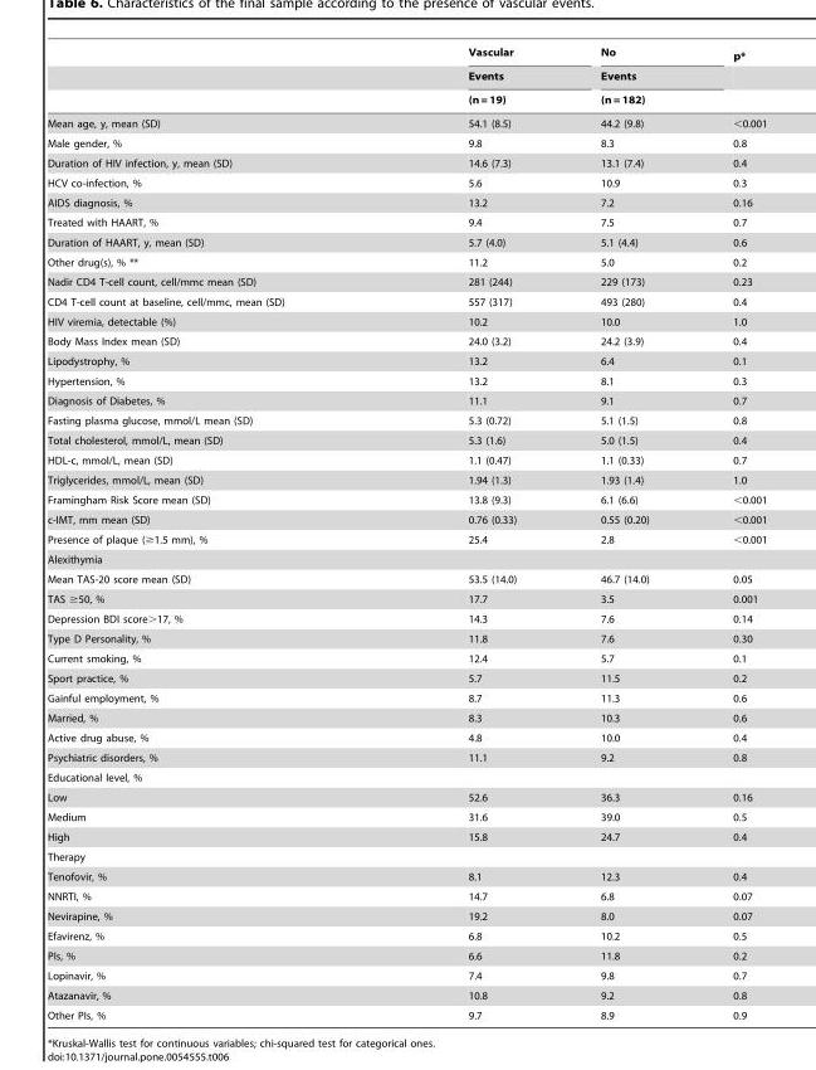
<table><thead><tr><td rowspan="3"></td><td rowspan="3">Vascular Events (n = 19)</td><td rowspan="3">No Events (n = 182)</td><td rowspan="3">p*</td></tr><tr></tr><tr></tr></thead><tbody><tr><td>Mean age, y, mean (SD)</td><td>54.1 (8.5)</td><td>44.2 (9.8)</td><td>&lt;0.001</td></tr><tr><td>Male gender, %</td><td>9.8</td><td>8.3</td><td>0.8</td></tr><tr><td>Duration of HIV infection, y, mean (SD)</td><td>14.6 (7.3)</td><td>13.1 (7.4)</td><td>0.4</td></tr><tr><td>HCV co-infection, %</td><td>5.6</td><td>10.9</td><td>0.3</td></tr><tr><td>AIDS diagnosis, %</td><td>13.2</td><td>7.2</td><td>0.16</td></tr><tr><td>Treated with HAART, %</td><td>9.4</td><td>7.5</td><td>0.7</td></tr><tr><td>Duration of HAART, y, mean (SD)</td><td>5.7 (4.0)</td><td>5.1 (4.4)</td><td>0.6</td></tr><tr><td>Other drug(s), % **</td><td>11.2</td><td>5.0</td><td>0.2</td></tr><tr><td>Nadir CD4 T-cell count, cell/mmc mean (SD)</td><td>281 (244)</td><td>229 (173)</td><td>0.23</td></tr><tr><td>CD4 T-cell count at baseline, cell/mmc, mean (SD)</td><td>557 (317)</td><td>493 (280)</td><td>0.4</td></tr><tr><td>HIV viremia, detectable (%)</td><td>10.2</td><td>10.0</td><td>1.0</td></tr><tr><td>Body Mass Index mean (SD)</td><td>24.0 (3.2)</td><td>24.2 (3.9)</td><td>0.4</td></tr><tr><td>Lipodystrophy, %</td><td>13.2</td><td>6.4</td><td>0.1</td></tr><tr><td>Hypertension, %</td><td>13.2</td><td>8.1</td><td>0.3</td></tr><tr><td>Diagnosis of Diabetes, %</td><td>11.1</td><td>9.1</td><td>0.7</td></tr><tr><td>Fasting plasma glucose, mmol/L mean (SD)</td><td>5.3 (0.72)</td><td>5.1 (1.5)</td><td>0.8</td></tr><tr><td>Total cholesterol, mmol/L, mean (SD)</td><td>5.3 (1.6)</td><td>5.0 (1.5)</td><td>0.4</td></tr><tr><td>HDL-c, mmol/L, mean (SD)</td><td>1.1 (0.47)</td><td>1.1 (0.33)</td><td>0.7</td></tr><tr><td>Triglycerides, mmol/L, mean (SD)</td><td>1.94 (1.3)</td><td>1.93 (1.4)</td><td>1.0</td></tr><tr><td>Framingham Risk Score mean (SD)</td><td>13.8 (9.3)</td><td>6.1 (6.6)</td><td>&lt;0.001</td></tr><tr><td>c-IMT, mm mean (SD)</td><td>0.76 (0.33)</td><td>0.55 (0.20)</td><td>&lt;0.001</td></tr><tr><td>Presence of plaque (≥1.5 mm), %</td><td>25.4</td><td>2.8</td><td>&lt;0.001</td></tr><tr><td colspan="4">Alexithymia</td></tr><tr><td>Mean TAS-20 score mean (SD)</td><td>53.5 (14.0)</td><td>46.7 (14.0)</td><td>0.05</td></tr><tr><td>TAS ≥50, %</td><td>17.7</td><td>3.5</td><td>0.001</td></tr><tr><td>Depression BDI score&gt;17, %</td><td>14.3</td><td>7.6</td><td>0.14</td></tr><tr><td>Type D Personality, %</td><td>11.8</td><td>7.6</td><td>0.30</td></tr><tr><td>Current smoking, %</td><td>12.4</td><td>5.7</td><td>0.1</td></tr><tr><td>Sport practice, %</td><td>5.7</td><td>11.5</td><td>0.2</td></tr><tr><td>Gainful employment, %</td><td>8.7</td><td>11.3</td><td>0.6</td></tr><tr><td>Married, %</td><td>8.3</td><td>10.3</td><td>0.6</td></tr><tr><td>Active drug abuse, %</td><td>4.8</td><td>10.0</td><td>0.4</td></tr><tr><td>Psychiatric disorders, %</td><td>11.1</td><td>9.2</td><td>0.8</td></tr><tr><td colspan="4">Educational level, %</td></tr><tr><td>Low</td><td>52.6</td><td>36.3</td><td>0.16</td></tr><tr><td>Medium</td><td>31.6</td><td>39.0</td><td>0.5</td></tr><tr><td>High</td><td>15.8</td><td>24.7</td><td>0.4</td></tr><tr><td colspan="4">Therapy</td></tr><tr><td>Tenofovir, %</td><td>8.1</td><td>12.3</td><td>0.4</td></tr><tr><td>NNRTI, %</td><td>14.7</td><td>6.8</td><td>0.07</td></tr><tr><td>Nevirapine, %</td><td>19.2</td><td>8.0</td><td>0.07</td></tr><tr><td>Efavirenz, %</td><td>6.8</td><td>10.2</td><td>0.5</td></tr><tr><td>PIs, %</td><td>6.6</td><td>11.8</td><td>0.2</td></tr><tr><td>Lopinavir, %</td><td>7.4</td><td>9.8</td><td>0.7</td></tr><tr><td>Atazanavir, %</td><td>10.8</td><td>9.2</td><td>0.8</td></tr><tr><td>Other PIs, %</td><td>9.7</td><td>8.9</td><td>0.9</td></tr></tbody></table>